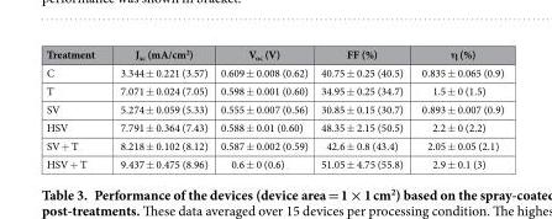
<table><thead><tr><td>Treatment</td><td>J<sub>sc</sub> (mA/cm<sup>2</sup>)</td><td>V<sub>oc</sub> (V)</td><td>FF (%)</td><td>η (%)</td></tr></thead><tbody><tr><td>C</td><td>3.344 ± 0.221 (3.57)</td><td>0.609 ± 0.008 (0.62)</td><td>40.75 ± 0.25 (40.5)</td><td>0.835 ± 0.065 (0.9)</td></tr><tr><td>T</td><td>7.071 ± 0.024 (7.05)</td><td>0.598 ± 0.001 (0.60)</td><td>34.95 ± 0.25 (34.7)</td><td>1.5 ± 0 (1.5)</td></tr><tr><td>SV</td><td>5.274 ± 0.059 (5.33)</td><td>0.555 ± 0.007 (0.56)</td><td>30.85 ± 0.15 (30.7)</td><td>0.893 ± 0.007 (0.9)</td></tr><tr><td>HSV</td><td>7.791 ± 0.364 (7.43)</td><td>0.588 ± 0.01 (0.60)</td><td>48.35 ± 2.15 (50.5)</td><td>2.2 ± 0 (2.2)</td></tr><tr><td>SV + T</td><td>8.218 ± 0.102 (8.12)</td><td>0.587 ± 0.002 (0.59)</td><td>42.6 ± 0.8 (43.4)</td><td>2.05 ± 0.05 (2.1)</td></tr><tr><td>HSV + T</td><td>9.437 ± 0.475 (8.96)</td><td>0.6 ± 0 (0.6)</td><td>51.05 ± 4.75 (55.8)</td><td>2.9 ± 0.1 (3)</td></tr></tbody></table>